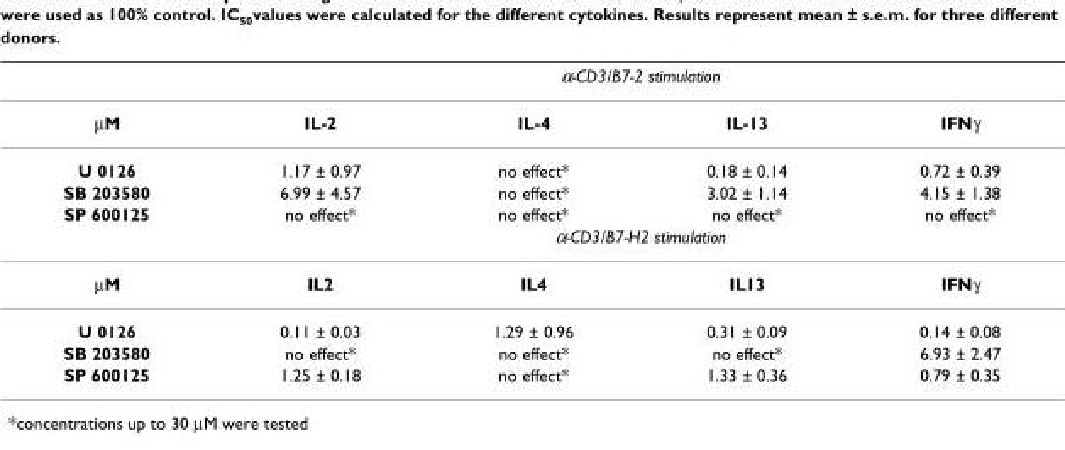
<table><thead><tr><td rowspan="2">µM</td><td colspan="4">α-CD3/B7-2 stimulation</td></tr><tr><td>IL-2</td><td>IL-4</td><td>IL-13</td><td>IFNγ</td></tr></thead><tbody><tr><td>U 0126</td><td>1.17 ± 0.97</td><td>no effect*</td><td>0.18 ± 0.14</td><td>0.72 ± 0.39</td></tr><tr><td>SB 203580</td><td>6.99 ± 4.57</td><td>no effect*</td><td>3.02 ± 1.14</td><td>4.15 ± 1.38</td></tr><tr><td rowspan="2">SP 600125</td><td>no effect*</td><td>no effect*</td><td>no effect*</td><td>no effect*</td></tr><tr><td colspan="4">α-CD3/B7-H2 stimulation</td></tr><tr><td>µM</td><td>IL2</td><td>IL4</td><td>IL13</td><td>IFNγ</td></tr><tr><td>U 0126</td><td>0.11 ± 0.03</td><td>1.29 ± 0.96</td><td>0.31 ± 0.09</td><td>0.14 ± 0.08</td></tr><tr><td>SB 203580</td><td>no effect*</td><td>no effect*</td><td>no effect*</td><td>6.93 ± 2.47</td></tr><tr><td>SP 600125</td><td>1.25 ± 0.18</td><td>no effect*</td><td>1.33 ± 0.36</td><td>0.79 ± 0.35</td></tr></tbody></table>